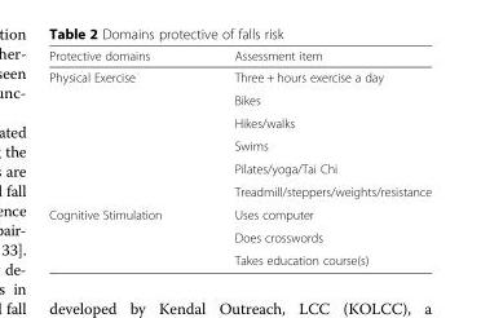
<table><thead><tr><td>Protective domains</td><td>Assessment item</td></tr></thead><tbody><tr><td rowspan="6">Physical Exercise</td><td>Three + hours exercise a day</td></tr><tr><td>Bikes</td></tr><tr><td>Hikes/walks</td></tr><tr><td>Swims</td></tr><tr><td>Pilates/yoga/Tai Chi</td></tr><tr><td>Treadmill/steppers/weights/resistance</td></tr><tr><td rowspan="3">Cognitive Stimulation</td><td>Uses computer</td></tr><tr><td>Does crosswords</td></tr><tr><td>Takes education course(s)</td></tr></tbody></table>